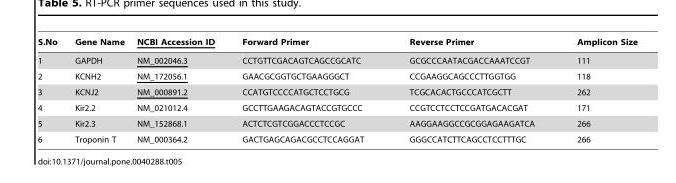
<table><thead><tr><td>S.No</td><td>Gene Name</td><td>NCBI Accession ID</td><td>Forward Primer</td><td>Reverse Primer</td><td>Amplicon Size</td></tr></thead><tbody><tr><td>1</td><td>GAPDH</td><td>NM_002046.3</td><td>CCTGTTCGACAGTCAGCCGCATC</td><td>GCGCCCAATACGACCAAATCCGT</td><td>111</td></tr><tr><td>2</td><td>KCNH2</td><td>NM_172056.1</td><td>GAACGCGGTGCTGAAGGGCT</td><td>CCGAAGGCAGCCCTTGGTGG</td><td>118</td></tr><tr><td>3</td><td>KCNJ2</td><td>NM_000891.2</td><td>CCATGTCCCCATGCTCCTGCG</td><td>TCGCACACTGCCCATCGCTT</td><td>262</td></tr><tr><td>4</td><td>Kir2.2</td><td>NM_021012.4</td><td>GCCTTGAAGACAGTACCGTGCCC</td><td>CCGTCCTCCTCCGATGACACGAT</td><td>171</td></tr><tr><td>5</td><td>Kir2.3</td><td>NM_152868.1</td><td>ACTCTCGTCGGACCCTCCGC</td><td>AAGGAAGGCCGCGGAGAAGATCA</td><td>266</td></tr><tr><td>6</td><td>Troponin T</td><td>NM_000364.2</td><td>GACTGAGCAGACGCCTCCAGGAT</td><td>GGGCCATCTTCAGCCTCCTTTGC</td><td>266</td></tr></tbody></table>